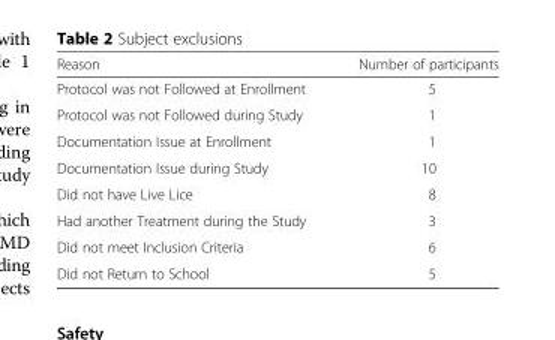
<table><thead><tr><td>Reason</td><td>Number of participants</td></tr></thead><tbody><tr><td>Protocol was not Followed at Enrollment</td><td>5</td></tr><tr><td>Protocol was not Followed during Study</td><td>1</td></tr><tr><td>Documentation Issue at Enrollment</td><td>1</td></tr><tr><td>Documentation Issue during Study</td><td>10</td></tr><tr><td>Did not have Live Lice</td><td>8</td></tr><tr><td>Had another Treatment during the Study</td><td>3</td></tr><tr><td>Did not meet Inclusion Criteria</td><td>6</td></tr><tr><td>Did not Return to School</td><td>5</td></tr></tbody></table>